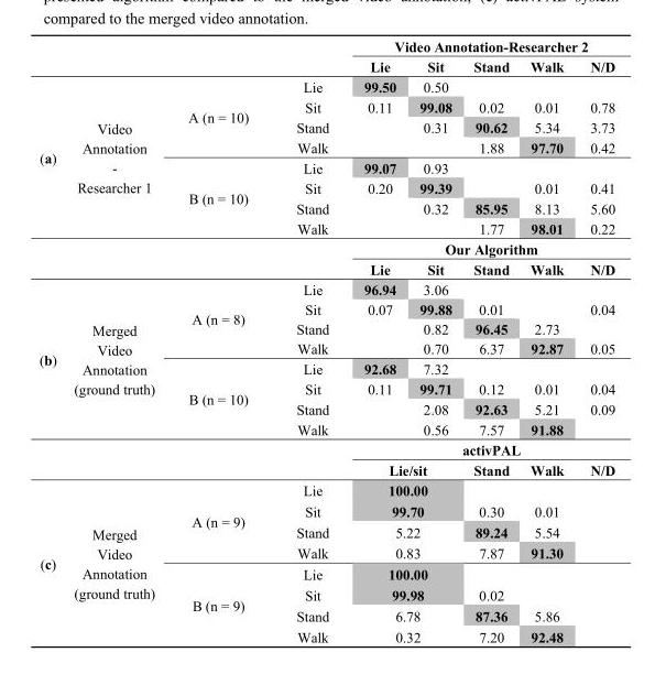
<table><thead><tr><td rowspan="2"></td><td rowspan="2"></td><td rowspan="2"></td><td rowspan="2"></td><td colspan="5">Video Annotation-Researcher 2</td></tr><tr><td>Lie</td><td>Sit</td><td>Stand</td><td>Walk</td><td>N/D</td></tr></thead><tbody><tr><td rowspan="10">(a)</td><td rowspan="8">Video Annotation - Researcher 1</td><td rowspan="4">A (n = 10)</td><td>Lie</td><td>99.50</td><td>0.50</td><td></td><td></td><td></td></tr><tr><td>Sit</td><td>0.11</td><td>99.08</td><td>0.02</td><td>0.01</td><td>0.78</td></tr><tr><td>Stand</td><td></td><td>0.31</td><td>90.62</td><td>5.34</td><td>3.73</td></tr><tr><td>Walk</td><td></td><td></td><td>1.88</td><td>97.70</td><td>0.42</td></tr><tr><td rowspan="4">B (n = 10)</td><td>Lie</td><td>99.07</td><td>0.93</td><td></td><td></td><td></td></tr><tr><td>Sit</td><td>0.20</td><td>99.39</td><td></td><td>0.01</td><td>0.41</td></tr><tr><td>Stand</td><td></td><td>0.32</td><td>85.95</td><td>8.13</td><td>5.60</td></tr><tr><td>Walk</td><td></td><td></td><td>1.77</td><td>98.01</td><td>0.22</td></tr><tr><td></td><td></td><td></td><td colspan="5">Our Algorithm</td></tr><tr><td></td><td></td><td></td><td>Lie</td><td>Sit</td><td>Stand</td><td>Walk</td><td>N/D</td></tr><tr><td rowspan="10">(b)</td><td rowspan="8">Merged Video Annotation (ground truth)</td><td rowspan="4">A (n = 8)</td><td>Lie</td><td>96.94</td><td>3.06</td><td></td><td></td><td></td></tr><tr><td>Sit</td><td>0.07</td><td>99.88</td><td>0.01</td><td></td><td>0.04</td></tr><tr><td>Stand</td><td></td><td>0.82</td><td>96.45</td><td>2.73</td><td></td></tr><tr><td>Walk</td><td></td><td>0.70</td><td>6.37</td><td>92.87</td><td>0.05</td></tr><tr><td rowspan="4">B (n = 10)</td><td>Lie</td><td>92.68</td><td>7.32</td><td></td><td></td><td></td></tr><tr><td>Sit</td><td>0.11</td><td>99.71</td><td>0.12</td><td>0.01</td><td>0.04</td></tr><tr><td>Stand</td><td></td><td>2.08</td><td>92.63</td><td>5.21</td><td>0.09</td></tr><tr><td>Walk</td><td></td><td>0.56</td><td>7.57</td><td>91.88</td><td></td></tr><tr><td></td><td></td><td></td><td colspan="5">activPAL</td></tr><tr><td></td><td></td><td></td><td colspan="2">Lie/sit</td><td>Stand</td><td>Walk</td><td>N/D</td></tr><tr><td rowspan="8">(c)</td><td rowspan="8">Merged Video Annotation (ground truth)</td><td rowspan="4">A (n = 9)</td><td>Lie</td><td colspan="2">100.00</td><td></td><td></td><td></td></tr><tr><td>Sit</td><td colspan="2">99.70</td><td>0.30</td><td>0.01</td><td></td></tr><tr><td>Stand</td><td colspan="2">5.22</td><td>89.24</td><td>5.54</td><td></td></tr><tr><td>Walk</td><td colspan="2">0.83</td><td>7.87</td><td>91.30</td><td></td></tr><tr><td rowspan="4">B (n = 9)</td><td>Lie</td><td colspan="2">100.00</td><td></td><td></td><td></td></tr><tr><td>Sit</td><td colspan="2">99.98</td><td>0.02</td><td></td><td></td></tr><tr><td>Stand</td><td colspan="2">6.78</td><td>87.36</td><td>5.86</td><td></td></tr><tr><td>Walk</td><td colspan="2">0.32</td><td>7.20</td><td>92.48</td><td></td></tr></tbody></table>